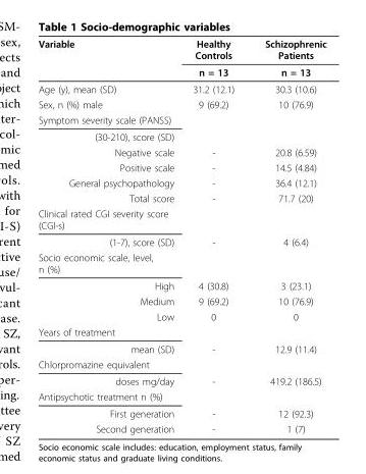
<table><thead><tr><td rowspan="2">Variable</td><td rowspan="2">Healthy Controls n = 13</td><td rowspan="2">Schizophrenic Patients n = 13</td></tr><tr></tr></thead><tbody><tr><td>Age (y), mean (SD)</td><td>31.2 (12.1)</td><td>30.3 (10.6)</td></tr><tr><td>Sex, n (%) male</td><td>9 (69.2)</td><td>10 (76.9)</td></tr><tr><td colspan="3">Symptom severity scale (PANSS)</td></tr><tr><td colspan="3">(30-210), score (SD)</td></tr><tr><td>Negative scale</td><td>-</td><td>20.8 (6.59)</td></tr><tr><td>Positive scale</td><td>-</td><td>14.5 (4.84)</td></tr><tr><td>General psychopathology</td><td>-</td><td>36.4 (12.1)</td></tr><tr><td>Total score</td><td>-</td><td>71.7 (20)</td></tr><tr><td colspan="3">Clinical rated CGI severity score (CGI-s)</td></tr><tr><td>(1-7), score (SD)</td><td>-</td><td>4 (6.4)</td></tr><tr><td colspan="3">Socio economic scale, level, n (%)</td></tr><tr><td>High</td><td>4 (30.8)</td><td>3 (23.1)</td></tr><tr><td>Medium</td><td>9 (69.2)</td><td>10 (76.9)</td></tr><tr><td>Low</td><td>0</td><td>0</td></tr><tr><td colspan="3">Years of treatment</td></tr><tr><td>mean (SD)</td><td>-</td><td>12.9 (11.4)</td></tr><tr><td colspan="3">Chlorpromazine equivalent</td></tr><tr><td>doses mg/day</td><td>-</td><td>419.2 (186.5)</td></tr><tr><td colspan="3">Antipsychotic treatment n (%)</td></tr><tr><td>First generation</td><td>-</td><td>12 (92.3)</td></tr><tr><td>Second generation</td><td>-</td><td>1 (7)</td></tr></tbody></table>